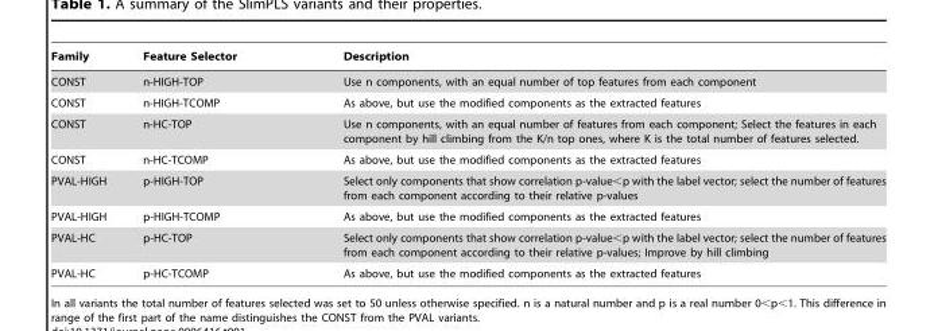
<table><thead><tr><td>Family</td><td>Feature Selector</td><td>Description</td></tr></thead><tbody><tr><td>CONST</td><td>n-HIGH-TOP</td><td>Use n components, with an equal number of top features from each component</td></tr><tr><td>CONST</td><td>n-HIGH-TCOMP</td><td>As above, but use the modified components as the extracted features</td></tr><tr><td>CONST</td><td>n-HC-TOP</td><td>Use n components, with an equal number of features from each component; Select the features in each component by hill climbing from the K/n top ones, where K is the total number of features selected.</td></tr><tr><td>CONST</td><td>n-HC-TCOMP</td><td>As above, but use the modified components as the extracted features</td></tr><tr><td>PVAL-HIGH</td><td>p-HIGH-TOP</td><td>Select only components that show correlation p-value&lt;p with the label vector; select the number of features from each component according to their relative p-values</td></tr><tr><td>PVAL-HIGH</td><td>p-HIGH-TCOMP</td><td>As above, but use the modified components as the extracted features</td></tr><tr><td>PVAL-HC</td><td>p-HC-TOP</td><td>Select only components that show correlation p-value&lt;p with the label vector; select the number of features from each component according to their relative p-values; Improve by hill climbing</td></tr><tr><td>PVAL-HC</td><td>p-HC-TCOMP</td><td>As above, but use the modified components as the extracted features</td></tr></tbody></table>